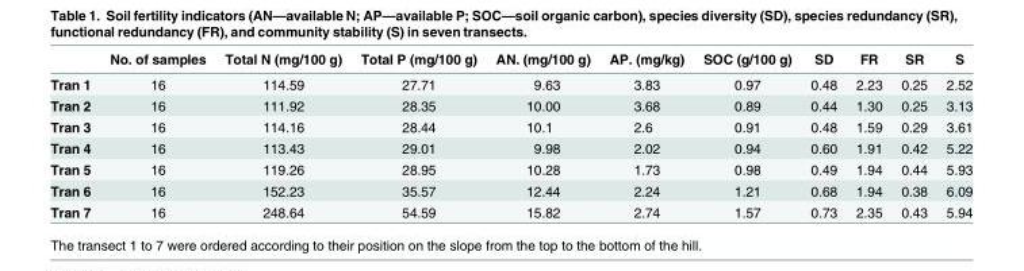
<table><thead><tr><td></td><td>No. of samples</td><td>Total N (mg/100 g)</td><td>Total P (mg/100 g)</td><td>AN. (mg/100 g)</td><td>AP. (mg/kg)</td><td>SOC (g/100 g)</td><td>SD</td><td>FR</td><td>SR</td><td>S</td></tr></thead><tbody><tr><td>Tran 1</td><td>16</td><td>114.59</td><td>27.71</td><td>9.63</td><td>3.83</td><td>0.97</td><td>0.48</td><td>2.23</td><td>0.25</td><td>2.52</td></tr><tr><td>Tran 2</td><td>16</td><td>111.92</td><td>28.35</td><td>10.00</td><td>3.68</td><td>0.89</td><td>0.44</td><td>1.30</td><td>0.25</td><td>3.13</td></tr><tr><td>Tran 3</td><td>16</td><td>114.16</td><td>28.44</td><td>10.1</td><td>2.6</td><td>0.91</td><td>0.48</td><td>1.59</td><td>0.29</td><td>3.61</td></tr><tr><td>Tran 4</td><td>16</td><td>113.43</td><td>29.01</td><td>9.98</td><td>2.02</td><td>0.94</td><td>0.60</td><td>1.91</td><td>0.42</td><td>5.22</td></tr><tr><td>Tran 5</td><td>16</td><td>119.26</td><td>28.95</td><td>10.28</td><td>1.73</td><td>0.98</td><td>0.49</td><td>1.94</td><td>0.44</td><td>5.93</td></tr><tr><td>Tran 6</td><td>16</td><td>152.23</td><td>35.57</td><td>12.44</td><td>2.24</td><td>1.21</td><td>0.68</td><td>1.94</td><td>0.38</td><td>6.09</td></tr><tr><td>Tran 7</td><td>16</td><td>248.64</td><td>54.59</td><td>15.82</td><td>2.74</td><td>1.57</td><td>0.73</td><td>2.35</td><td>0.43</td><td>5.94</td></tr></tbody></table>